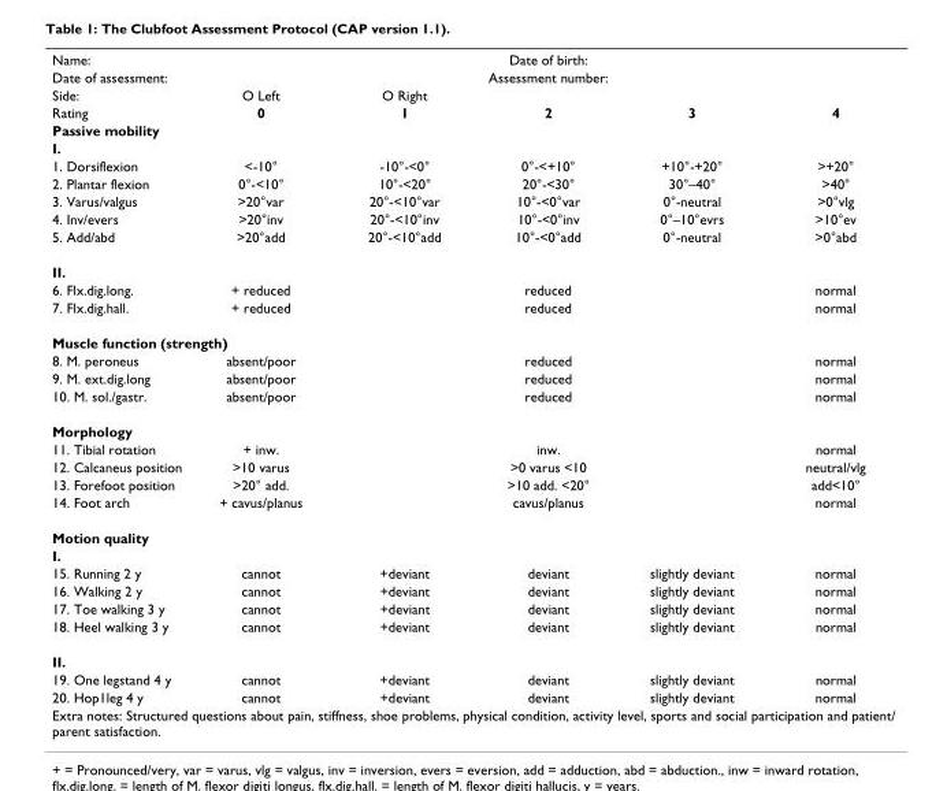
<table><tbody><tr><td>Name:</td><td colspan="5">Date of birth:</td></tr><tr><td>Date of assessment:</td><td colspan="5">Assessment number:</td></tr><tr><td>Side:</td><td>O Left</td><td>O Right</td><td></td><td></td><td></td></tr><tr><td>Rating</td><td>0</td><td>1</td><td>2</td><td>3</td><td>4</td></tr><tr><td colspan="6">Passive mobility</td></tr><tr><td colspan="6">I.</td></tr><tr><td>1. Dorsiflexion</td><td>&lt;-10°</td><td>-10°-&lt;0°</td><td>0°-&lt;+10°</td><td>+10°-+20°</td><td>&gt;+20°</td></tr><tr><td>2. Plantar flexion</td><td>0°-&lt;10°</td><td>10°-&lt;20°</td><td>20°-&lt;30°</td><td>30°–40°</td><td>&gt;40°</td></tr><tr><td>3. Varus/valgus</td><td>&gt;20°var</td><td>20°-&lt;10°var</td><td>10°-&lt;0°var</td><td>0°-neutral</td><td>&gt;0°vlg</td></tr><tr><td>4. Inv/evers</td><td>&gt;20°inv</td><td>20°-&lt;10°inv</td><td>10°-&lt;0°inv</td><td>0°–10°evrs</td><td>&gt;10°ev</td></tr><tr><td>5. Add/abd</td><td>&gt;20°add</td><td>20°-&lt;10°add</td><td>10°-&lt;0°add</td><td>0°-neutral</td><td>&gt;0°abd</td></tr><tr><td colspan="6">II.</td></tr><tr><td>6. Flx.dig.long.</td><td>+ reduced</td><td></td><td>reduced</td><td></td><td>normal</td></tr><tr><td>7. Flx.dig.hall.</td><td>+ reduced</td><td></td><td>reduced</td><td></td><td>normal</td></tr><tr><td colspan="6">Muscle function (strength)</td></tr><tr><td>8. M. peroneus</td><td>absent/poor</td><td></td><td>reduced</td><td></td><td>normal</td></tr><tr><td>9. M. ext.dig.long</td><td>absent/poor</td><td></td><td>reduced</td><td></td><td>normal</td></tr><tr><td>10. M. sol./gastr.</td><td>absent/poor</td><td></td><td>reduced</td><td></td><td>normal</td></tr><tr><td colspan="6">Morphology</td></tr><tr><td>11. Tibial rotation</td><td>+ inw.</td><td></td><td>inw.</td><td></td><td>normal</td></tr><tr><td>12. Calcaneus position</td><td>&gt;10 varus</td><td></td><td>&gt;0 varus &lt;10</td><td></td><td>neutral/vlg</td></tr><tr><td>13. Forefoot position</td><td>&gt;20° add.</td><td></td><td>&gt;10 add. &lt;20°</td><td></td><td>add&lt;10°</td></tr><tr><td>14. Foot arch</td><td>+ cavus/planus</td><td></td><td>cavus/planus</td><td></td><td>normal</td></tr><tr><td colspan="6">Motion quality</td></tr><tr><td colspan="6">I.</td></tr><tr><td>15. Running 2 y</td><td>cannot</td><td>+deviant</td><td>deviant</td><td>slightly deviant</td><td>normal</td></tr><tr><td>16. Walking 2 y</td><td>cannot</td><td>+deviant</td><td>deviant</td><td>slightly deviant</td><td>normal</td></tr><tr><td>17. Toe walking 3 y</td><td>cannot</td><td>+deviant</td><td>deviant</td><td>slightly deviant</td><td>normal</td></tr><tr><td>18. Heel walking 3 y</td><td>cannot</td><td>+deviant</td><td>deviant</td><td>slightly deviant</td><td>normal</td></tr><tr><td colspan="6">II.</td></tr><tr><td>19. One legstand 4 y</td><td>cannot</td><td>+deviant</td><td>deviant</td><td>slightly deviant</td><td>normal</td></tr><tr><td>20. Hop1leg 4 y</td><td>cannot</td><td>+deviant</td><td>deviant</td><td>slightly deviant</td><td>normal</td></tr><tr><td colspan="6">Extra notes: Structured questions about pain, stiffness, shoe problems, physical condition, activity level, sports and social participation and patient/ parent satisfaction.</td></tr></tbody></table>